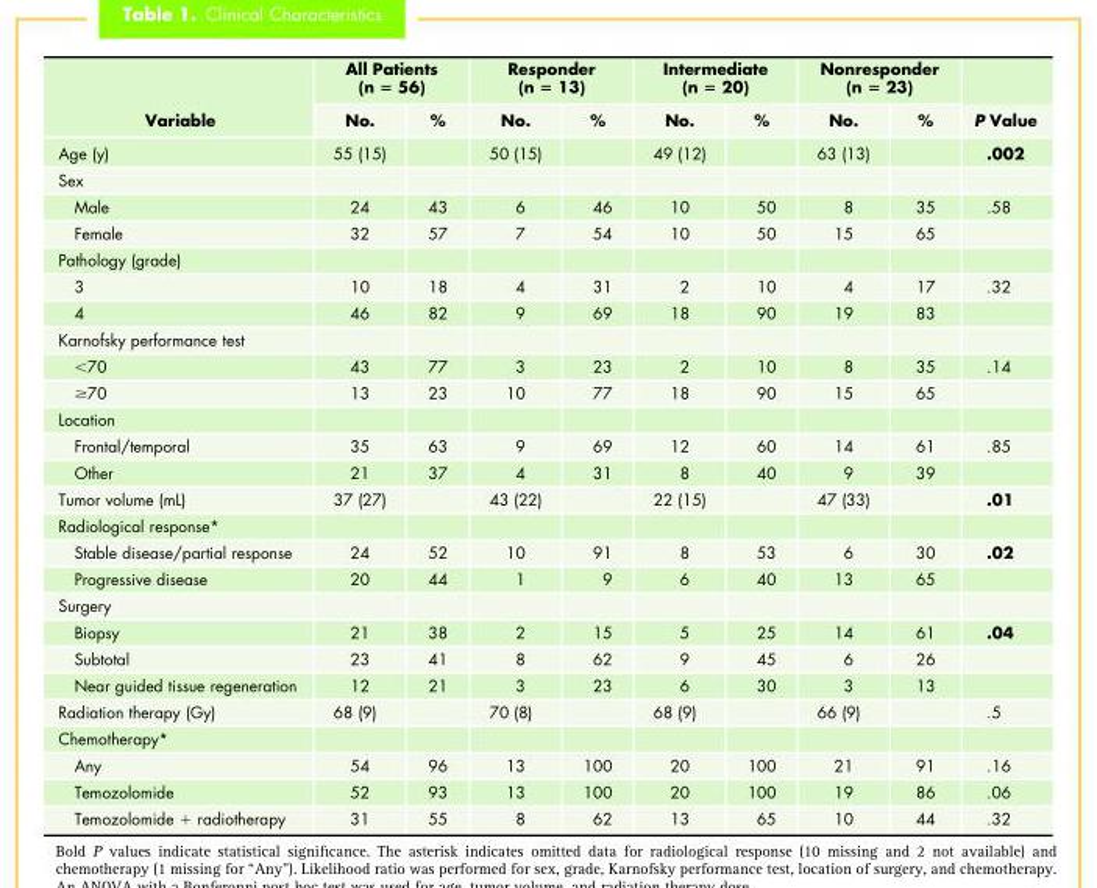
<table><thead><tr><td rowspan="2">Variable</td><td colspan="2">All Patients (n = 56)</td><td colspan="2">Responder (n = 13)</td><td colspan="2">Intermediate (n = 20)</td><td colspan="2">Nonresponder (n = 23)</td><td rowspan="2">P Value</td></tr><tr><td>No.</td><td>%</td><td>No.</td><td>%</td><td>No.</td><td>%</td><td>No.</td><td>%</td></tr></thead><tbody><tr><td>Age (y)</td><td>55 (15)</td><td></td><td>50 (15)</td><td></td><td>49 (12)</td><td></td><td>63 (13)</td><td></td><td>.002</td></tr><tr><td colspan="10">Sex</td></tr><tr><td>Male</td><td>24</td><td>43</td><td>6</td><td>46</td><td>10</td><td>50</td><td>8</td><td>35</td><td>.58</td></tr><tr><td>Female</td><td>32</td><td>57</td><td>7</td><td>54</td><td>10</td><td>50</td><td>15</td><td>65</td><td></td></tr><tr><td colspan="10">Pathology (grade)</td></tr><tr><td>3</td><td>10</td><td>18</td><td>4</td><td>31</td><td>2</td><td>10</td><td>4</td><td>17</td><td>.32</td></tr><tr><td>4</td><td>46</td><td>82</td><td>9</td><td>69</td><td>18</td><td>90</td><td>19</td><td>83</td><td></td></tr><tr><td colspan="10">Karnofsky performance test</td></tr><tr><td>&lt;70</td><td>43</td><td>77</td><td>3</td><td>23</td><td>2</td><td>10</td><td>8</td><td>35</td><td>.14</td></tr><tr><td>≥70</td><td>13</td><td>23</td><td>10</td><td>77</td><td>18</td><td>90</td><td>15</td><td>65</td><td></td></tr><tr><td colspan="10">Location</td></tr><tr><td>Frontal/temporal</td><td>35</td><td>63</td><td>9</td><td>69</td><td>12</td><td>60</td><td>14</td><td>61</td><td>.85</td></tr><tr><td>Other</td><td>21</td><td>37</td><td>4</td><td>31</td><td>8</td><td>40</td><td>9</td><td>39</td><td></td></tr><tr><td>Tumor volume (mL)</td><td>37 (27)</td><td></td><td>43 (22)</td><td></td><td>22 (15)</td><td></td><td>47 (33)</td><td></td><td>.01</td></tr><tr><td colspan="10">Radiological response*</td></tr><tr><td>Stable disease/partial response</td><td>24</td><td>52</td><td>10</td><td>91</td><td>8</td><td>53</td><td>6</td><td>30</td><td>.02</td></tr><tr><td>Progressive disease</td><td>20</td><td>44</td><td>1</td><td>9</td><td>6</td><td>40</td><td>13</td><td>65</td><td></td></tr><tr><td colspan="10">Surgery</td></tr><tr><td>Biopsy</td><td>21</td><td>38</td><td>2</td><td>15</td><td>5</td><td>25</td><td>14</td><td>61</td><td>.04</td></tr><tr><td>Subtotal</td><td>23</td><td>41</td><td>8</td><td>62</td><td>9</td><td>45</td><td>6</td><td>26</td><td></td></tr><tr><td>Near guided tissue regeneration</td><td>12</td><td>21</td><td>3</td><td>23</td><td>6</td><td>30</td><td>3</td><td>13</td><td></td></tr><tr><td>Radiation therapy (Gy)</td><td>68 (9)</td><td></td><td>70 (8)</td><td></td><td>68 (9)</td><td></td><td>66 (9)</td><td></td><td>.5</td></tr><tr><td colspan="10">Chemotherapy*</td></tr><tr><td>Any</td><td>54</td><td>96</td><td>13</td><td>100</td><td>20</td><td>100</td><td>21</td><td>91</td><td>.16</td></tr><tr><td>Temozolomide</td><td>52</td><td>93</td><td>13</td><td>100</td><td>20</td><td>100</td><td>19</td><td>86</td><td>.06</td></tr><tr><td>Temozolomide + radiotherapy</td><td>31</td><td>55</td><td>8</td><td>62</td><td>13</td><td>65</td><td>10</td><td>44</td><td>.32</td></tr></tbody></table>